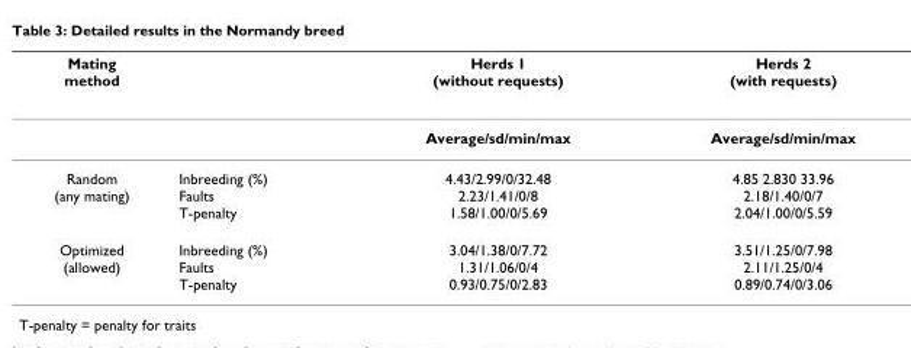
<table><thead><tr><td>Mating method</td><td></td><td>Herds 1 (without requests)</td><td>Herds 2 (with requests)</td></tr></thead><tbody><tr><td></td><td></td><td>Average/sd/min/max</td><td>Average/sd/min/max</td></tr><tr><td>Random (any mating)</td><td>Inbreeding (%) Faults T-penalty</td><td>4.43/2.99/0/32.48 2.23/1.41/0/8 1.58/1.00/0/5.69</td><td>4.85 2.830 33.96 2.18/1.40/0/7 2.04/1.00/0/5.59</td></tr><tr><td>Optimized (allowed)</td><td>Inbreeding (%) Faults T-penalty</td><td>3.04/1.38/0/7.72 1.31/1.06/0/4 0.93/0.75/0/2.83</td><td>3.51/1.25/0/7.98 2.11/1.25/0/4 0.89/0.74/0/3.06</td></tr></tbody></table>